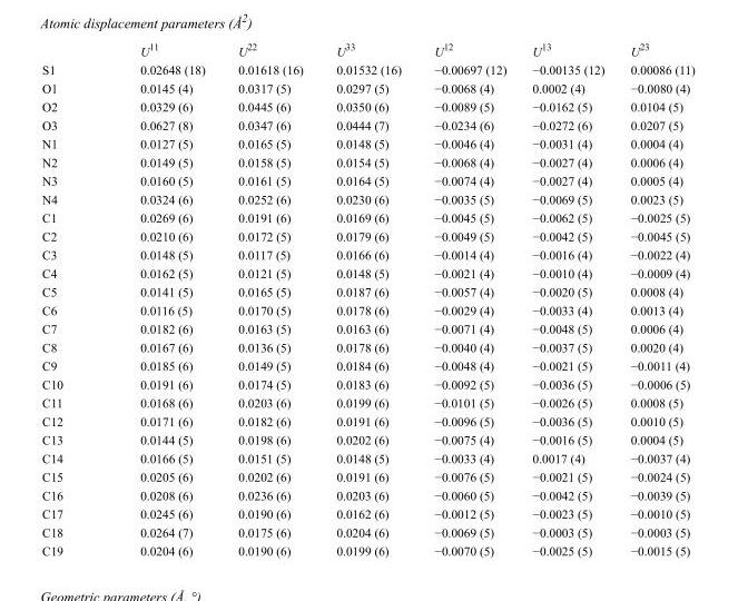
<table><thead><tr><td></td><td>U<sup>11</sup></td><td>U<sup>22</sup></td><td>U<sup>33</sup></td><td>U<sup>12</sup></td><td>U<sup>13</sup></td><td>U<sup>23</sup></td></tr></thead><tbody><tr><td>S1</td><td>0.02648 (18)</td><td>0.01618 (16)</td><td>0.01532 (16)</td><td>−0.00697 (12)</td><td>−0.00135 (12)</td><td>0.00086 (11)</td></tr><tr><td>O1</td><td>0.0145 (4)</td><td>0.0317 (5)</td><td>0.0297 (5)</td><td>−0.0068 (4)</td><td>0.0002 (4)</td><td>−0.0080 (4)</td></tr><tr><td>O2</td><td>0.0329 (6)</td><td>0.0445 (6)</td><td>0.0350 (6)</td><td>−0.0089 (5)</td><td>−0.0162 (5)</td><td>0.0104 (5)</td></tr><tr><td>O3</td><td>0.0627 (8)</td><td>0.0347 (6)</td><td>0.0444 (7)</td><td>−0.0234 (6)</td><td>−0.0272 (6)</td><td>0.0207 (5)</td></tr><tr><td>N1</td><td>0.0127 (5)</td><td>0.0165 (5)</td><td>0.0148 (5)</td><td>−0.0046 (4)</td><td>−0.0031 (4)</td><td>0.0004 (4)</td></tr><tr><td>N2</td><td>0.0149 (5)</td><td>0.0158 (5)</td><td>0.0154 (5)</td><td>−0.0068 (4)</td><td>−0.0027 (4)</td><td>0.0006 (4)</td></tr><tr><td>N3</td><td>0.0160 (5)</td><td>0.0161 (5)</td><td>0.0164 (5)</td><td>−0.0074 (4)</td><td>−0.0027 (4)</td><td>0.0005 (4)</td></tr><tr><td>N4</td><td>0.0324 (6)</td><td>0.0252 (6)</td><td>0.0230 (6)</td><td>−0.0035 (5)</td><td>−0.0069 (5)</td><td>0.0023 (5)</td></tr><tr><td>C1</td><td>0.0269 (6)</td><td>0.0191 (6)</td><td>0.0169 (6)</td><td>−0.0045 (5)</td><td>−0.0062 (5)</td><td>−0.0025 (5)</td></tr><tr><td>C2</td><td>0.0210 (6)</td><td>0.0172 (5)</td><td>0.0179 (6)</td><td>−0.0049 (5)</td><td>−0.0042 (5)</td><td>−0.0045 (5)</td></tr><tr><td>C3</td><td>0.0148 (5)</td><td>0.0117 (5)</td><td>0.0166 (6)</td><td>−0.0014 (4)</td><td>−0.0016 (4)</td><td>−0.0022 (4)</td></tr><tr><td>C4</td><td>0.0162 (5)</td><td>0.0121 (5)</td><td>0.0148 (5)</td><td>−0.0021 (4)</td><td>−0.0010 (4)</td><td>−0.0009 (4)</td></tr><tr><td>C5</td><td>0.0141 (5)</td><td>0.0165 (5)</td><td>0.0187 (6)</td><td>−0.0057 (4)</td><td>−0.0020 (5)</td><td>0.0008 (4)</td></tr><tr><td>C6</td><td>0.0116 (5)</td><td>0.0170 (5)</td><td>0.0178 (6)</td><td>−0.0029 (4)</td><td>−0.0033 (4)</td><td>0.0013 (4)</td></tr><tr><td>C7</td><td>0.0182 (6)</td><td>0.0163 (5)</td><td>0.0163 (6)</td><td>−0.0071 (4)</td><td>−0.0048 (5)</td><td>0.0006 (4)</td></tr><tr><td>C8</td><td>0.0167 (6)</td><td>0.0136 (5)</td><td>0.0178 (6)</td><td>−0.0040 (4)</td><td>−0.0037 (5)</td><td>0.0020 (4)</td></tr><tr><td>C9</td><td>0.0185 (6)</td><td>0.0149 (5)</td><td>0.0184 (6)</td><td>−0.0048 (4)</td><td>−0.0021 (5)</td><td>−0.0011 (4)</td></tr><tr><td>C10</td><td>0.0191 (6)</td><td>0.0174 (5)</td><td>0.0183 (6)</td><td>−0.0092 (5)</td><td>−0.0036 (5)</td><td>−0.0006 (5)</td></tr><tr><td>C11</td><td>0.0168 (6)</td><td>0.0203 (6)</td><td>0.0199 (6)</td><td>−0.0101 (5)</td><td>−0.0026 (5)</td><td>0.0008 (5)</td></tr><tr><td>C12</td><td>0.0171 (6)</td><td>0.0182 (6)</td><td>0.0191 (6)</td><td>−0.0096 (5)</td><td>−0.0036 (5)</td><td>0.0010 (5)</td></tr><tr><td>C13</td><td>0.0144 (5)</td><td>0.0198 (6)</td><td>0.0202 (6)</td><td>−0.0075 (4)</td><td>−0.0016 (5)</td><td>0.0004 (5)</td></tr><tr><td>C14</td><td>0.0166 (5)</td><td>0.0151 (5)</td><td>0.0148 (5)</td><td>−0.0033 (4)</td><td>0.0017 (4)</td><td>−0.0037 (4)</td></tr><tr><td>C15</td><td>0.0205 (6)</td><td>0.0202 (6)</td><td>0.0191 (6)</td><td>−0.0076 (5)</td><td>−0.0021 (5)</td><td>−0.0024 (5)</td></tr><tr><td>C16</td><td>0.0208 (6)</td><td>0.0236 (6)</td><td>0.0203 (6)</td><td>−0.0060 (5)</td><td>−0.0042 (5)</td><td>−0.0039 (5)</td></tr><tr><td>C17</td><td>0.0245 (6)</td><td>0.0190 (6)</td><td>0.0162 (6)</td><td>−0.0012 (5)</td><td>−0.0023 (5)</td><td>−0.0010 (5)</td></tr><tr><td>C18</td><td>0.0264 (7)</td><td>0.0175 (6)</td><td>0.0204 (6)</td><td>−0.0069 (5)</td><td>−0.0003 (5)</td><td>−0.0003 (5)</td></tr><tr><td>C19</td><td>0.0204 (6)</td><td>0.0190 (6)</td><td>0.0199 (6)</td><td>−0.0070 (5)</td><td>−0.0025 (5)</td><td>−0.0015 (5)</td></tr></tbody></table>